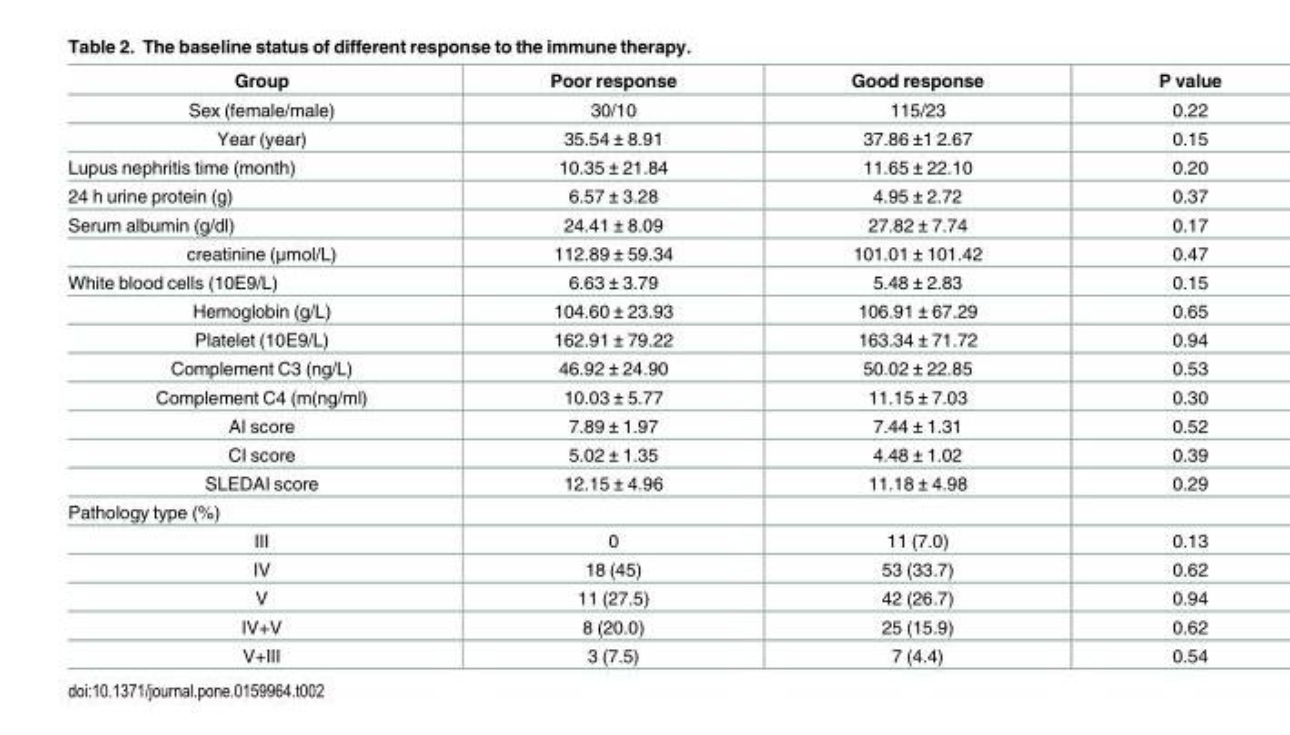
<table><thead><tr><td>Group</td><td>Poor response</td><td>Good response</td><td>P value</td></tr></thead><tbody><tr><td>Sex (female/male)</td><td>30/10</td><td>115/23</td><td>0.22</td></tr><tr><td>Year (year)</td><td>35.54 ± 8.91</td><td>37.86 ±1 2.67</td><td>0.15</td></tr><tr><td>Lupus nephritis time (month)</td><td>10.35 ± 21.84</td><td>11.65 ± 22.10</td><td>0.20</td></tr><tr><td>24 h urine protein (g)</td><td>6.57 ± 3.28</td><td>4.95 ± 2.72</td><td>0.37</td></tr><tr><td>Serum albumin (g/dl)</td><td>24.41 ± 8.09</td><td>27.82 ± 7.74</td><td>0.17</td></tr><tr><td>creatinine (μmol/L)</td><td>112.89 ± 59.34</td><td>101.01 ± 101.42</td><td>0.47</td></tr><tr><td>White blood cells (10E9/L)</td><td>6.63 ± 3.79</td><td>5.48 ± 2.83</td><td>0.15</td></tr><tr><td>Hemoglobin (g/L)</td><td>104.60 ± 23.93</td><td>106.91 ± 67.29</td><td>0.65</td></tr><tr><td>Platelet (10E9/L)</td><td>162.91 ± 79.22</td><td>163.34 ± 71.72</td><td>0.94</td></tr><tr><td>Complement C3 (ng/L)</td><td>46.92 ± 24.90</td><td>50.02 ± 22.85</td><td>0.53</td></tr><tr><td>Complement C4 (m(ng/ml)</td><td>10.03 ± 5.77</td><td>11.15 ± 7.03</td><td>0.30</td></tr><tr><td>AI score</td><td>7.89 ± 1.97</td><td>7.44 ± 1.31</td><td>0.52</td></tr><tr><td>CI score</td><td>5.02 ± 1.35</td><td>4.48 ± 1.02</td><td>0.39</td></tr><tr><td>SLEDAI score</td><td>12.15 ± 4.96</td><td>11.18 ± 4.98</td><td>0.29</td></tr><tr><td colspan="4">Pathology type (%)</td></tr><tr><td>III</td><td>0</td><td>11 (7.0)</td><td>0.13</td></tr><tr><td>IV</td><td>18 (45)</td><td>53 (33.7)</td><td>0.62</td></tr><tr><td>V</td><td>11 (27.5)</td><td>42 (26.7)</td><td>0.94</td></tr><tr><td>IV+V</td><td>8 (20.0)</td><td>25 (15.9)</td><td>0.62</td></tr><tr><td>V+III</td><td>3 (7.5)</td><td>7 (4.4)</td><td>0.54</td></tr></tbody></table>